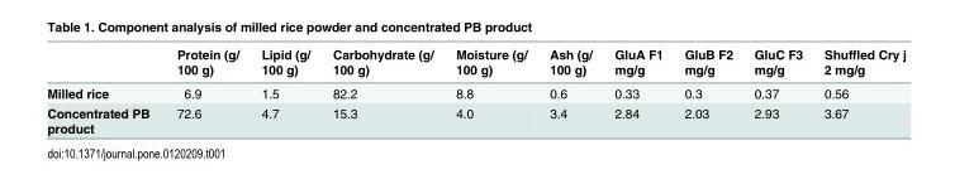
<table><thead><tr><td></td><td>Protein (g/ 100 g)</td><td>Lipid (g/ 100 g)</td><td>Carbohydrate (g/ 100 g)</td><td>Moisture (g/ 100 g)</td><td>Ash (g/ 100 g)</td><td>GluA F1 mg/g</td><td>GluB F2 mg/g</td><td>GluC F3 mg/g</td><td>Shuffled Cry j 2 mg/g</td></tr></thead><tbody><tr><td>Milled rice</td><td>6.9</td><td>1.5</td><td>82.2</td><td>8.8</td><td>0.6</td><td>0.33</td><td>0.3</td><td>0.37</td><td>0.56</td></tr><tr><td>Concentrated PB product</td><td>72.6</td><td>4.7</td><td>15.3</td><td>4.0</td><td>3.4</td><td>2.84</td><td>2.03</td><td>2.93</td><td>3.67</td></tr></tbody></table>